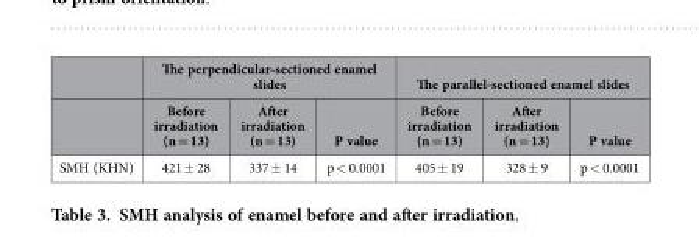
<table><thead><tr><td rowspan="2"></td><td colspan="3">The perpendicular-sectioned enamel slides</td><td colspan="3">The parallel-sectioned enamel slides</td></tr><tr><td>Before irradiation (n = 13)</td><td>After irradiation (n = 13)</td><td>P value</td><td>Before irradiation (n = 13)</td><td>After irradiation (n = 13)</td><td>P value</td></tr></thead><tbody><tr><td>SMH (KHN)</td><td>421 ± 28</td><td>337 ± 14</td><td>p &lt; 0.0001</td><td>405 ± 19</td><td>328 ± 9</td><td>p &lt; 0.0001</td></tr></tbody></table>